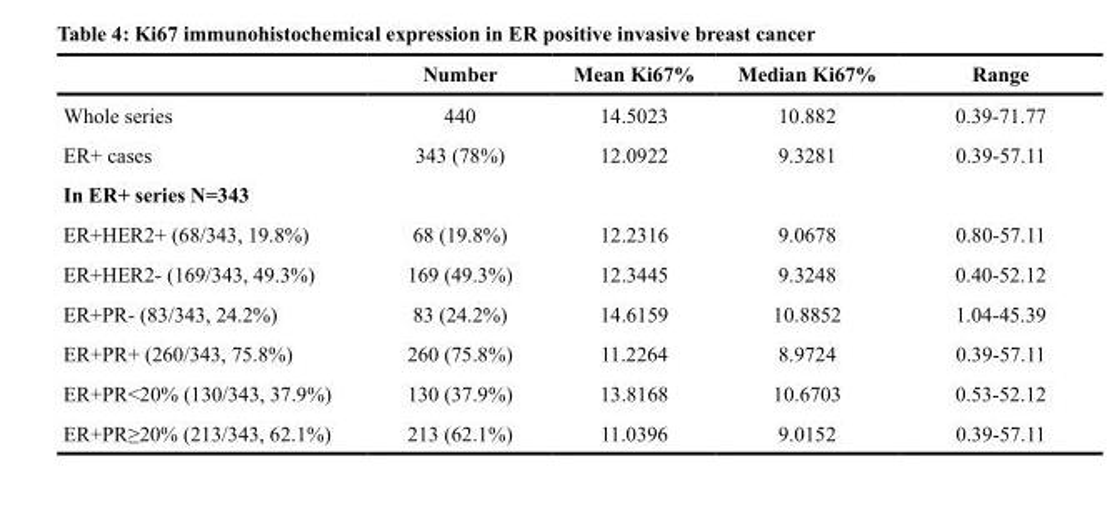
<table><thead><tr><td></td><td>Number</td><td>Mean Ki67%</td><td>Median Ki67%</td><td>Range</td></tr></thead><tbody><tr><td>Whole series</td><td>440</td><td>14.5023</td><td>10.882</td><td>0.39-71.77</td></tr><tr><td>ER+ cases</td><td>343 (78%)</td><td>12.0922</td><td>9.3281</td><td>0.39-57.11</td></tr><tr><td colspan="5">In ER+ series N=343</td></tr><tr><td>ER+HER2+ (68/343, 19.8%)</td><td>68 (19.8%)</td><td>12.2316</td><td>9.0678</td><td>0.80-57.11</td></tr><tr><td>ER+HER2- (169/343, 49.3%)</td><td>169 (49.3%)</td><td>12.3445</td><td>9.3248</td><td>0.40-52.12</td></tr><tr><td>ER+PR- (83/343, 24.2%)</td><td>83 (24.2%)</td><td>14.6159</td><td>10.8852</td><td>1.04-45.39</td></tr><tr><td>ER+PR+ (260/343, 75.8%)</td><td>260 (75.8%)</td><td>11.2264</td><td>8.9724</td><td>0.39-57.11</td></tr><tr><td>ER+PR&lt;20% (130/343, 37.9%)</td><td>130 (37.9%)</td><td>13.8168</td><td>10.6703</td><td>0.53-52.12</td></tr><tr><td>ER+PR≥20% (213/343, 62.1%)</td><td>213 (62.1%)</td><td>11.0396</td><td>9.0152</td><td>0.39-57.11</td></tr></tbody></table>